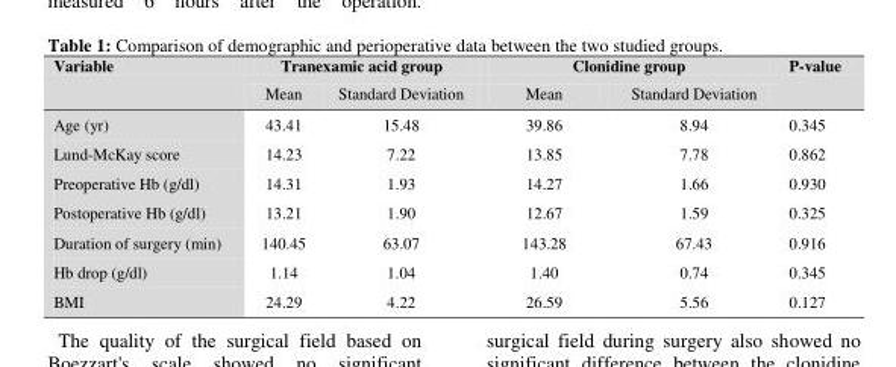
<table><thead><tr><td rowspan="2">Variable</td><td colspan="2">Tranexamic acid group</td><td colspan="2">Clonidine group</td><td rowspan="2">P-value</td></tr><tr><td>Mean</td><td>Standard Deviation</td><td>Mean</td><td>Standard Deviation</td></tr></thead><tbody><tr><td>Age (yr)</td><td>43.41</td><td>15.48</td><td>39.86</td><td>8.94</td><td>0.345</td></tr><tr><td>Lund-McKay score</td><td>14.23</td><td>7.22</td><td>13.85</td><td>7.78</td><td>0.862</td></tr><tr><td>Preoperative Hb (g/dl)</td><td>14.31</td><td>1.93</td><td>14.27</td><td>1.66</td><td>0.930</td></tr><tr><td>Postoperative Hb (g/dl)</td><td>13.21</td><td>1.90</td><td>12.67</td><td>1.59</td><td>0.325</td></tr><tr><td>Duration of surgery (min)</td><td>140.45</td><td>63.07</td><td>143.28</td><td>67.43</td><td>0.916</td></tr><tr><td>Hb drop (g/dl)</td><td>1.14</td><td>1.04</td><td>1.40</td><td>0.74</td><td>0.345</td></tr><tr><td>BMI</td><td>24.29</td><td>4.22</td><td>26.59</td><td>5.56</td><td>0.127</td></tr></tbody></table>